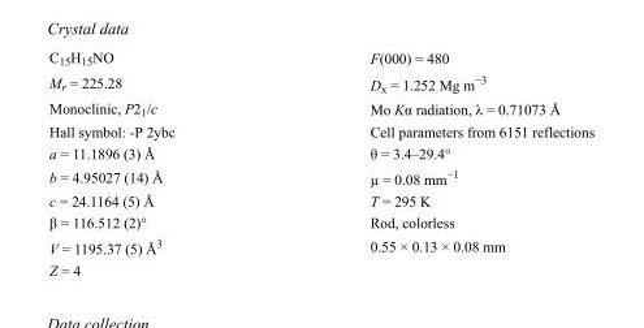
<table><tbody><tr><td>C<sub>15</sub>H<sub>15</sub>NO</td><td>F(000) = 480</td></tr><tr><td>M<sub>r</sub> = 225.28</td><td>D<sub>x</sub> = 1.252 Mg m<sup>−3</sup></td></tr><tr><td>Monoclinic, P2<sub>1</sub>/c</td><td>Mo Kα radiation, λ = 0.71073 Å</td></tr><tr><td>Hall symbol: -P 2ybc</td><td>Cell parameters from 6151 reflections</td></tr><tr><td>a = 11.1896 (3) Å</td><td>θ = 3.4–29.4°</td></tr><tr><td>b = 4.95027 (14) Å</td><td>µ = 0.08 mm<sup>−1</sup></td></tr><tr><td>c = 24.1164 (5) Å</td><td>T = 295 K</td></tr><tr><td>β = 116.512 (2)°</td><td>Rod, colorless</td></tr><tr><td>V = 1195.37 (5) Å<sup>3</sup></td><td>0.55 × 0.13 × 0.08 mm</td></tr><tr><td>Z = 4</td><td></td></tr></tbody></table>